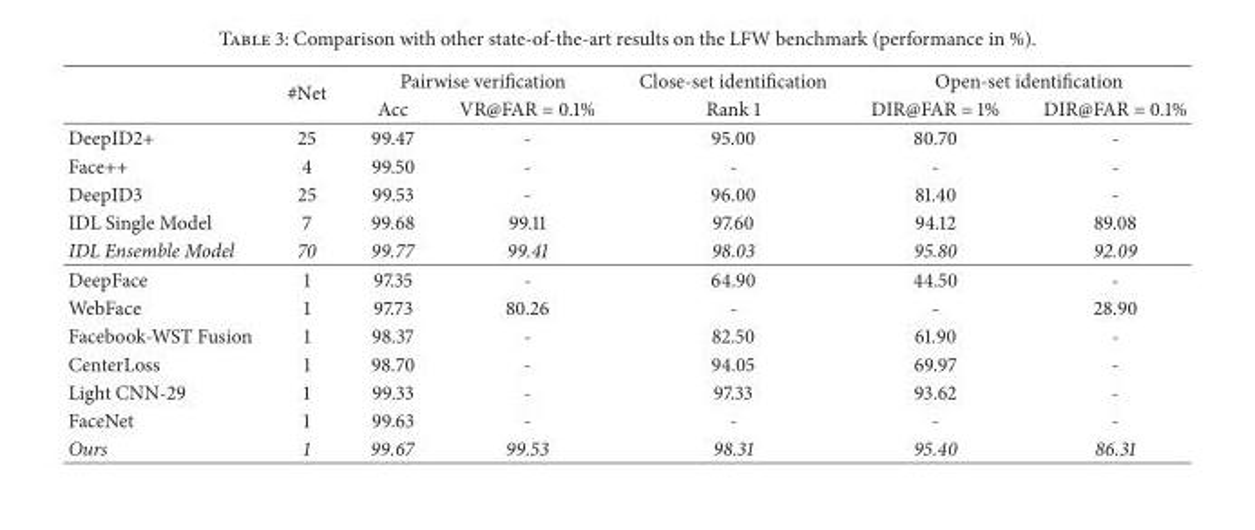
<table><thead><tr><td rowspan="2"></td><td rowspan="2">#Net</td><td colspan="2">Pairwise verification</td><td rowspan="2">Close-set identification Rank 1</td><td colspan="2">Open-set identification</td></tr><tr><td>Acc</td><td>VR@FAR = 0.1%</td><td>DIR@FAR = 1%</td><td>DIR@FAR = 0.1%</td></tr></thead><tbody><tr><td>DeepID2+</td><td>25</td><td>99.47</td><td>-</td><td>95.00</td><td>80.70</td><td>-</td></tr><tr><td>Face++</td><td>4</td><td>99.50</td><td>-</td><td>-</td><td>-</td><td>-</td></tr><tr><td>DeepID3</td><td>25</td><td>99.53</td><td>-</td><td>96.00</td><td>81.40</td><td>-</td></tr><tr><td>IDL Single Model</td><td>7</td><td>99.68</td><td>99.11</td><td>97.60</td><td>94.12</td><td>89.08</td></tr><tr><td>IDL Ensemble Model</td><td>70</td><td>99.77</td><td>99.41</td><td>98.03</td><td>95.80</td><td>92.09</td></tr><tr><td>DeepFace</td><td>1</td><td>97.35</td><td>-</td><td>64.90</td><td>44.50</td><td>-</td></tr><tr><td>WebFace</td><td>1</td><td>97.73</td><td>80.26</td><td>-</td><td>-</td><td>28.90</td></tr><tr><td>Facebook-WST Fusion</td><td>1</td><td>98.37</td><td>-</td><td>82.50</td><td>61.90</td><td>-</td></tr><tr><td>CenterLoss</td><td>1</td><td>98.70</td><td>-</td><td>94.05</td><td>69.97</td><td>-</td></tr><tr><td>Light CNN-29</td><td>1</td><td>99.33</td><td>-</td><td>97.33</td><td>93.62</td><td>-</td></tr><tr><td>FaceNet</td><td>1</td><td>99.63</td><td>-</td><td>-</td><td>-</td><td>-</td></tr><tr><td>Ours</td><td>1</td><td>99.67</td><td>99.53</td><td>98.31</td><td>95.40</td><td>86.31</td></tr></tbody></table>